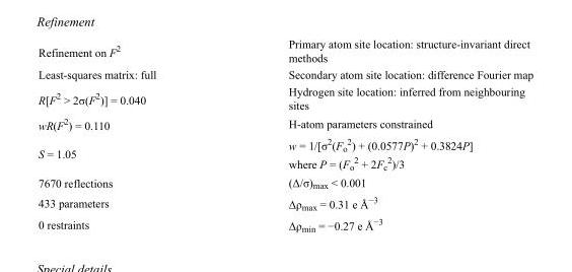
<table><tbody><tr><td>Refinement on F<sup>2</sup></td><td>Primary atom site location: structure-invariant direct methods</td></tr><tr><td>Least-squares matrix: full</td><td>Secondary atom site location: difference Fourier map</td></tr><tr><td>R[F<sup>2</sup> &gt; 2σ(F<sup>2</sup>)] = 0.040</td><td>Hydrogen site location: inferred from neighbouring sites</td></tr><tr><td>wR(F<sup>2</sup>) = 0.110</td><td>H-atom parameters constrained</td></tr><tr><td>S = 1.05</td><td>w = 1/[σ<sup>2</sup>(F<sub>o</sub> <sup>2</sup>) + (0.0577P)<sup>2</sup> + 0.3824P] where P = (F<sub>o</sub> <sup>2</sup> + 2F<sub>c</sub> <sup>2</sup>)/3</td></tr><tr><td>7670 reflections</td><td>(Δ/σ)<sub>max</sub> &lt; 0.001</td></tr><tr><td>433 parameters</td><td>Δρ<sub>max</sub> = 0.31 e Å<sup>−3</sup></td></tr><tr><td>0 restraints</td><td>Δρ<sub>min</sub> = −0.27 e Å<sup>−3</sup></td></tr></tbody></table>